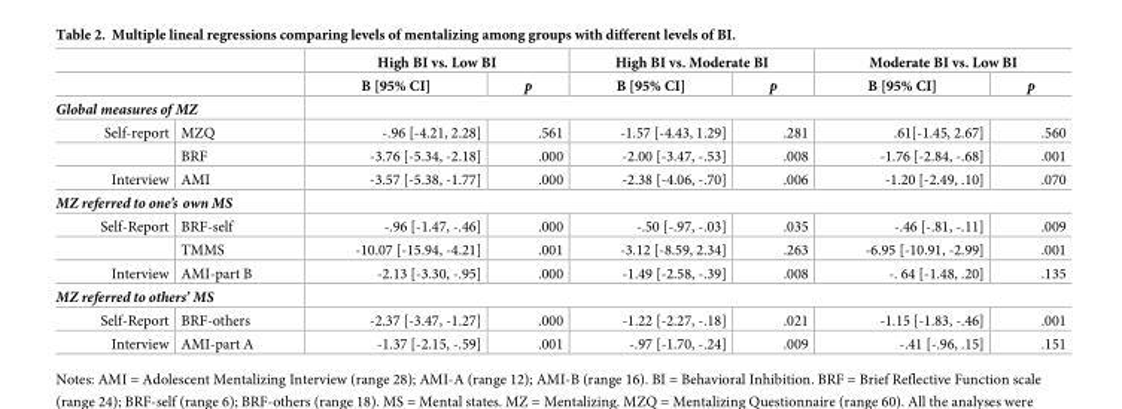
<table><thead><tr><td rowspan="2"></td><td rowspan="2"></td><td colspan="2">High BI vs. Low BI</td><td colspan="2">High BI vs. Moderate BI</td><td colspan="2">Moderate BI vs. Low BI</td></tr><tr><td>B [95% CI]</td><td>p</td><td>B [95% CI]</td><td>p</td><td>B [95% CI]</td><td>p</td></tr></thead><tbody><tr><td colspan="8">Global measures of MZ</td></tr><tr><td rowspan="2">Self-report</td><td>MZQ</td><td>-.96 [-4.21, 2.28]</td><td>.561</td><td>-1.57 [-4.43, 1.29]</td><td>.281</td><td>.61[-1.45, 2.67]</td><td>.560</td></tr><tr><td>BRF</td><td>-3.76 [-5.34, -2.18]</td><td>.000</td><td>-2.00 [-3.47, -.53]</td><td>.008</td><td>-1.76 [-2.84, -.68]</td><td>.001</td></tr><tr><td>Interview</td><td>AMI</td><td>-3.57 [-5.38, -1.77]</td><td>.000</td><td>-2.38 [-4.06, -.70]</td><td>.006</td><td>-1.20 [-2.49, .10]</td><td>.070</td></tr><tr><td colspan="8">MZ referred to one’s own MS</td></tr><tr><td rowspan="2">Self-Report</td><td>BRF-self</td><td>-.96 [-1.47, -.46]</td><td>.000</td><td>-.50 [-.97, -.03]</td><td>.035</td><td>-.46 [-.81, -.11]</td><td>.009</td></tr><tr><td>TMMS</td><td>-10.07 [-15.94, -4.21]</td><td>.001</td><td>-3.12 [-8.59, 2.34]</td><td>.263</td><td>-6.95 [-10.91, -2.99]</td><td>.001</td></tr><tr><td>Interview</td><td>AMI-part B</td><td>-2.13 [-3.30, -.95]</td><td>.000</td><td>-1.49 [-2.58, -.39]</td><td>.008</td><td>-. 64 [-1.48, .20]</td><td>.135</td></tr><tr><td colspan="8">MZ referred to others’ MS</td></tr><tr><td>Self-Report</td><td>BRF-others</td><td>-2.37 [-3.47, -1.27]</td><td>.000</td><td>-1.22 [-2.27, -.18]</td><td>.021</td><td>-1.15 [-1.83, -.46]</td><td>.001</td></tr><tr><td>Interview</td><td>AMI-part A</td><td>-1.37 [-2.15, -.59]</td><td>.001</td><td>-.97 [-1.70, -.24]</td><td>.009</td><td>-.41 [-.96, .15]</td><td>.151</td></tr></tbody></table>